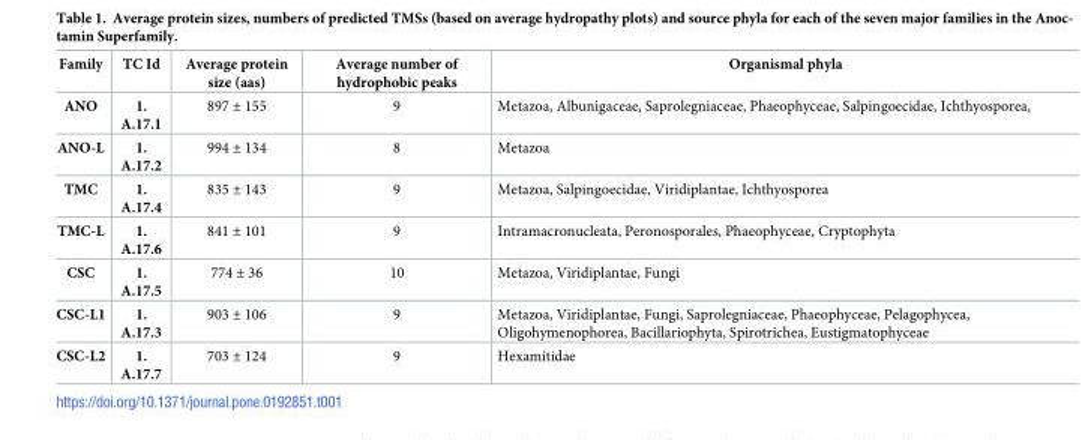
<table><thead><tr><td>Family</td><td>TC Id</td><td>Average protein size (aas)</td><td>Average number of hydrophobic peaks</td><td>Organismal phyla</td></tr></thead><tbody><tr><td>ANO</td><td>1. A.17.1</td><td>897 ± 155</td><td>9</td><td>Metazoa, Albunigaceae, Saprolegniaceae, Phaeophyceae, Salpingoecidae, Ichthyosporea,</td></tr><tr><td>ANO-L</td><td>1. A.17.2</td><td>994 ± 134</td><td>8</td><td>Metazoa</td></tr><tr><td>TMC</td><td>1. A.17.4</td><td>835 ± 143</td><td>9</td><td>Metazoa, Salpingoecidae, Viridiplantae, Ichthyosporea</td></tr><tr><td>TMC-L</td><td>1. A.17.6</td><td>841 ± 101</td><td>9</td><td>Intramacronucleata, Peronosporales, Phaeophyceae, Cryptophyta</td></tr><tr><td>CSC</td><td>1. A.17.5</td><td>774 ± 36</td><td>10</td><td>Metazoa, Viridiplantae, Fungi</td></tr><tr><td>CSC-L1</td><td>1. A.17.3</td><td>903 ± 106</td><td>9</td><td>Metazoa, Viridiplantae, Fungi, Saprolegniaceae, Phaeophyceae, Pelagophycea, Oligohymenophorea, Bacillariophyta, Spirotrichea, Eustigmatophyceae</td></tr><tr><td>CSC-L2</td><td>1. A.17.7</td><td>703 ± 124</td><td>9</td><td>Hexamitidae</td></tr></tbody></table>